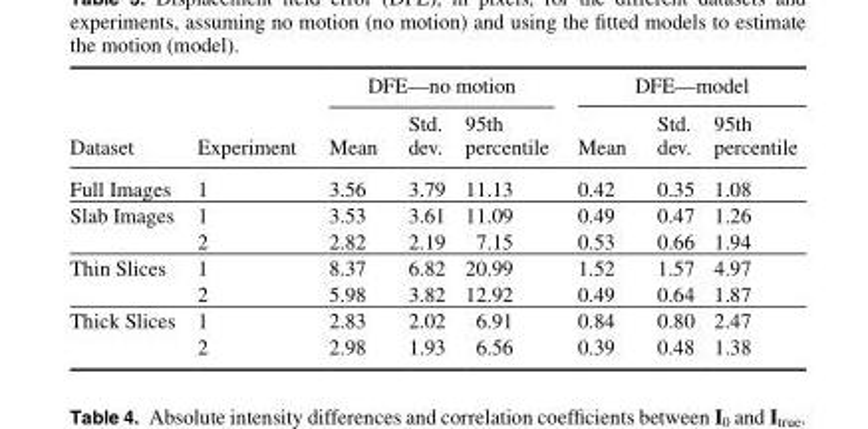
<table><thead><tr><td rowspan="2">Dataset</td><td rowspan="2">Experiment</td><td colspan="3">DFE—no motion</td><td colspan="3">DFE—model</td></tr><tr><td>Mean</td><td>Std. dev.</td><td>95th percentile</td><td>Mean</td><td>Std. dev.</td><td>95th percentile</td></tr></thead><tbody><tr><td>Full Images</td><td>1</td><td>3.56</td><td>3.79</td><td>11.13</td><td>0.42</td><td>0.35</td><td>1.08</td></tr><tr><td rowspan="2">Slab Images</td><td>1</td><td>3.53</td><td>3.61</td><td>11.09</td><td>0.49</td><td>0.47</td><td>1.26</td></tr><tr><td>2</td><td>2.82</td><td>2.19</td><td>7.15</td><td>0.53</td><td>0.66</td><td>1.94</td></tr><tr><td rowspan="2">Thin Slices</td><td>1</td><td>8.37</td><td>6.82</td><td>20.99</td><td>1.52</td><td>1.57</td><td>4.97</td></tr><tr><td>2</td><td>5.98</td><td>3.82</td><td>12.92</td><td>0.49</td><td>0.64</td><td>1.87</td></tr><tr><td rowspan="2">Thick Slices</td><td>1</td><td>2.83</td><td>2.02</td><td>6.91</td><td>0.84</td><td>0.80</td><td>2.47</td></tr><tr><td>2</td><td>2.98</td><td>1.93</td><td>6.56</td><td>0.39</td><td>0.48</td><td>1.38</td></tr></tbody></table>